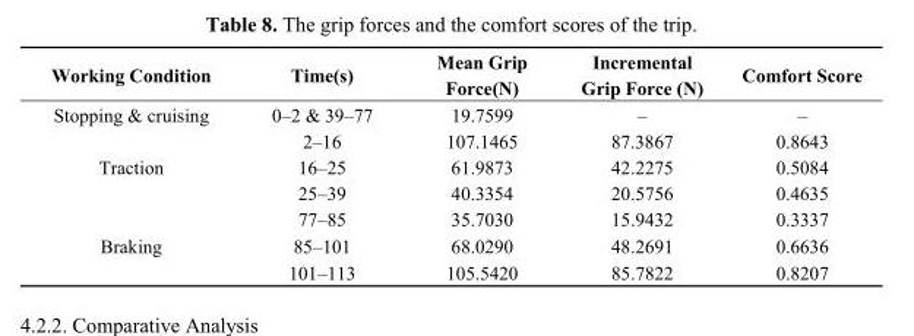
<table><thead><tr><td>Working Condition</td><td>Time(s)</td><td>Mean Grip Force(N)</td><td>Incremental Grip Force (N)</td><td>Comfort Score</td></tr></thead><tbody><tr><td>Stopping &amp; cruising</td><td>0–2 &amp; 39–77</td><td>19.7599</td><td>‒</td><td>‒</td></tr><tr><td rowspan="3">Traction</td><td>2–16</td><td>107.1465</td><td>87.3867</td><td>0.8643</td></tr><tr><td>16–25</td><td>61.9873</td><td>42.2275</td><td>0.5084</td></tr><tr><td>25–39</td><td>40.3354</td><td>20.5756</td><td>0.4635</td></tr><tr><td rowspan="3">Braking</td><td>77–85</td><td>35.7030</td><td>15.9432</td><td>0.3337</td></tr><tr><td>85–101</td><td>68.0290</td><td>48.2691</td><td>0.6636</td></tr><tr><td>101–113</td><td>105.5420</td><td>85.7822</td><td>0.8207</td></tr></tbody></table>